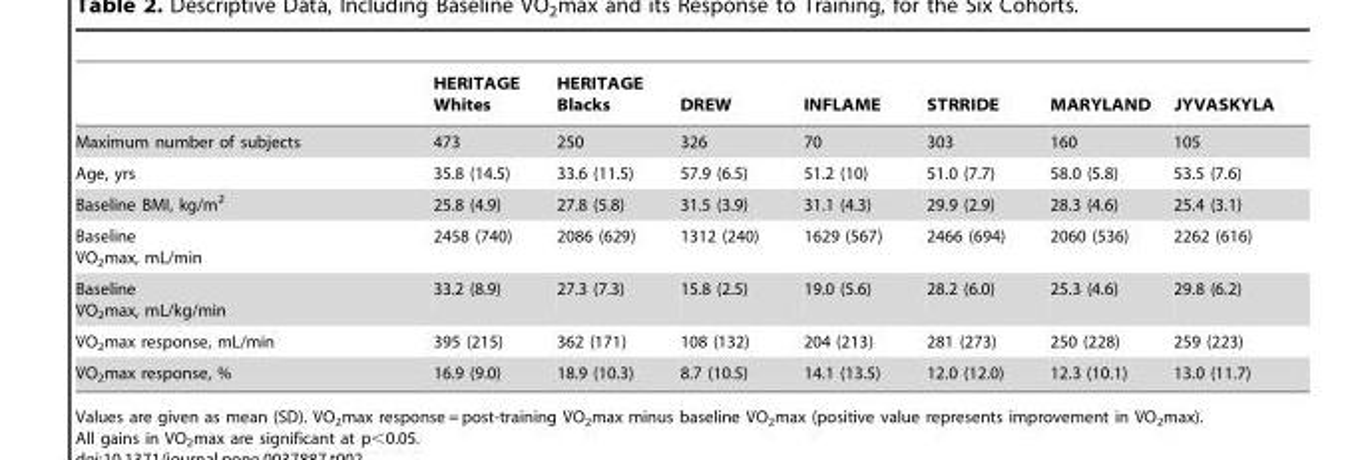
<table><thead><tr><td></td><td>HERITAGE Whites</td><td>HERITAGE Blacks</td><td>DREW</td><td>INFLAME</td><td>STRRIDE</td><td>MARYLAND</td><td>JYVASKYLA</td></tr></thead><tbody><tr><td>Maximum number of subjects</td><td>473</td><td>250</td><td>326</td><td>70</td><td>303</td><td>160</td><td>105</td></tr><tr><td>Age, yrs</td><td>35.8 (14.5)</td><td>33.6 (11.5)</td><td>57.9 (6.5)</td><td>51.2 (10)</td><td>51.0 (7.7)</td><td>58.0 (5.8)</td><td>53.5 (7.6)</td></tr><tr><td>Baseline BMI, kg/m<sup>2</sup></td><td>25.8 (4.9)</td><td>27.8 (5.8)</td><td>31.5 (3.9)</td><td>31.1 (4.3)</td><td>29.9 (2.9)</td><td>28.3 (4.6)</td><td>25.4 (3.1)</td></tr><tr><td>Baseline V˙O2max, mL/min</td><td>2458 (740)</td><td>2086 (629)</td><td>1312 (240)</td><td>1629 (567)</td><td>2466 (694)</td><td>2060 (536)</td><td>2262 (616)</td></tr><tr><td>Baseline V˙O2max, mL/kg/min</td><td>33.2 (8.9)</td><td>27.3 (7.3)</td><td>15.8 (2.5)</td><td>19.0 (5.6)</td><td>28.2 (6.0)</td><td>25.3 (4.6)</td><td>29.8 (6.2)</td></tr><tr><td>V˙O2max response, mL/min</td><td>395 (215)</td><td>362 (171)</td><td>108 (132)</td><td>204 (213)</td><td>281 (273)</td><td>250 (228)</td><td>259 (223)</td></tr><tr><td>V˙O2max response, %</td><td>16.9 (9.0)</td><td>18.9 (10.3)</td><td>8.7 (10.5)</td><td>14.1 (13.5)</td><td>12.0 (12.0)</td><td>12.3 (10.1)</td><td>13.0 (11.7)</td></tr></tbody></table>